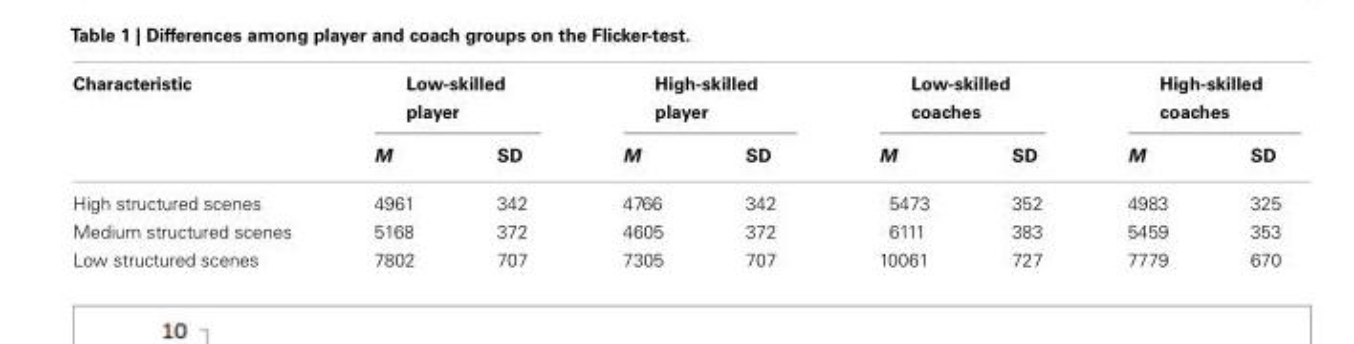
<table><thead><tr><td rowspan="2">Characteristic</td><td colspan="2">Low-skilled player</td><td colspan="2">High-skilled player</td><td colspan="2">Low-skilled coaches</td><td colspan="2">High-skilled coaches</td></tr><tr><td>M</td><td>SD</td><td>M</td><td>SD</td><td>M</td><td>SD</td><td>M</td><td>SD</td></tr></thead><tbody><tr><td>High structured scenes</td><td>4961</td><td>342</td><td>4766</td><td>342</td><td>5473</td><td>352</td><td>4983</td><td>325</td></tr><tr><td>Medium structured scenes</td><td>5168</td><td>372</td><td>4605</td><td>372</td><td>6111</td><td>383</td><td>5459</td><td>353</td></tr><tr><td>Low structured scenes</td><td>7802</td><td>707</td><td>7305</td><td>707</td><td>10061</td><td>727</td><td>7779</td><td>670</td></tr></tbody></table>